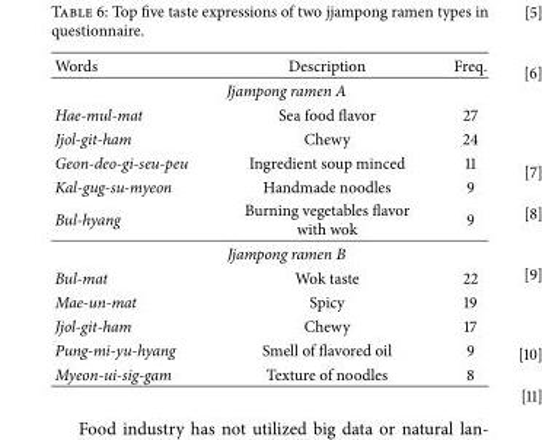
<table><thead><tr><td>Words</td><td>Description</td><td>Freq.</td></tr></thead><tbody><tr><td colspan="3">Jjampong ramen A</td></tr><tr><td>Hae-mul-mat</td><td>Sea food flavor</td><td>27</td></tr><tr><td>Jjol-git-ham</td><td>Chewy</td><td>24</td></tr><tr><td>Geon-deo-gi-seu-peu</td><td>Ingredient soup minced</td><td>11</td></tr><tr><td>Kal-gug-su-myeon</td><td>Handmade noodles</td><td>9</td></tr><tr><td>Bul-hyang</td><td>Burning vegetables flavor with wok</td><td>9</td></tr><tr><td colspan="3">Jjampong ramen B</td></tr><tr><td>Bul-mat</td><td>Wok taste</td><td>22</td></tr><tr><td>Mae-un-mat</td><td>Spicy</td><td>19</td></tr><tr><td>Jjol-git-ham</td><td>Chewy</td><td>17</td></tr><tr><td>Pung-mi-yu-hyang</td><td>Smell of flavored oil</td><td>9</td></tr><tr><td>Myeon-ui-sig-gam</td><td>Texture of noodles</td><td>8</td></tr></tbody></table>